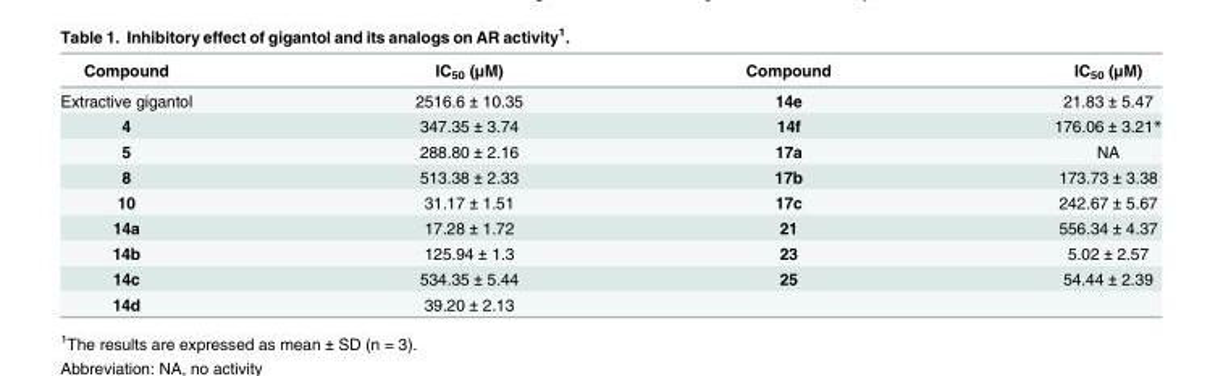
<table><thead><tr><td>Compound</td><td>IC<sub>50</sub> (μM)</td><td>Compound</td><td>IC<sub>50</sub> (μM)</td></tr></thead><tbody><tr><td>Extractive gigantol</td><td>2516.6 ± 10.35</td><td>14e</td><td>21.83 ± 5.47</td></tr><tr><td>4</td><td>347.35 ± 3.74</td><td>14f</td><td>176.06 ± 3.21*</td></tr><tr><td>5</td><td>288.80 ± 2.16</td><td>17a</td><td>NA</td></tr><tr><td>8</td><td>513.38 ± 2.33</td><td>17b</td><td>173.73 ± 3.38</td></tr><tr><td>10</td><td>31.17 ± 1.51</td><td>17c</td><td>242.67 ± 5.67</td></tr><tr><td>14a</td><td>17.28 ± 1.72</td><td>21</td><td>556.34 ± 4.37</td></tr><tr><td>14b</td><td>125.94 ± 1.3</td><td>23</td><td>5.02 ± 2.57</td></tr><tr><td>14c</td><td>534.35 ± 5.44</td><td>25</td><td>54.44 ± 2.39</td></tr><tr><td>14d</td><td>39.20 ± 2.13</td><td></td><td></td></tr></tbody></table>